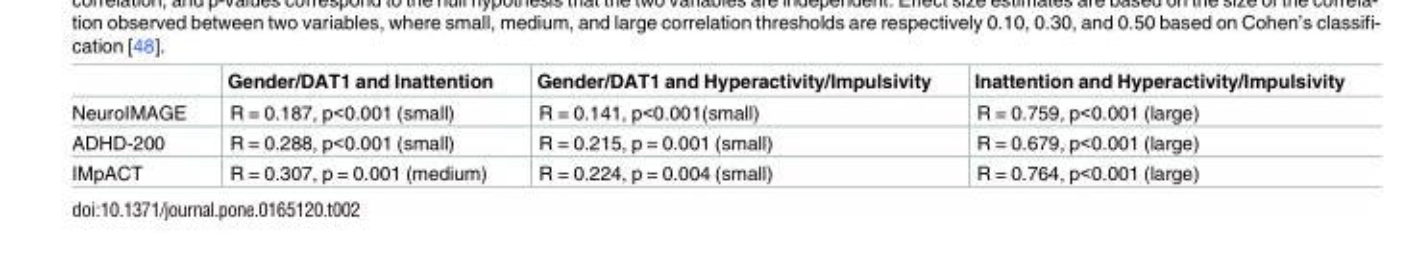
<table><thead><tr><td></td><td>Gender/DAT1 and Inattention</td><td>Gender/DAT1 and Hyperactivity/Impulsivity</td><td>Inattention and Hyperactivity/Impulsivity</td></tr></thead><tbody><tr><td>NeuroIMAGE</td><td>R = 0.187, p&lt;0.001 (small)</td><td>R = 0.141, p&lt;0.001(small)</td><td>R = 0.759, p&lt;0.001 (large)</td></tr><tr><td>ADHD-200</td><td>R = 0.288, p&lt;0.001 (small)</td><td>R = 0.215, p = 0.001 (small)</td><td>R = 0.679, p&lt;0.001 (large)</td></tr><tr><td>IMpACT</td><td>R = 0.307, p = 0.001 (medium)</td><td>R = 0.224, p = 0.004 (small)</td><td>R = 0.764, p&lt;0.001 (large)</td></tr></tbody></table>